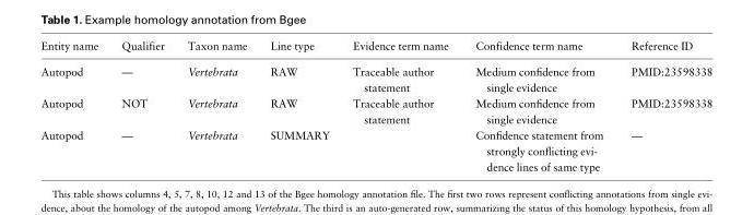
<table><thead><tr><td>Entity name</td><td>Qualifier</td><td>Taxon name</td><td>Line type</td><td>Evidence term name</td><td>Confidence term name</td><td>Reference ID</td></tr></thead><tbody><tr><td>Autopod</td><td>—</td><td>Vertebrata</td><td>RAW</td><td>Traceable author statement</td><td>Medium confidence from single evidence</td><td>PMID:23598338</td></tr><tr><td>Autopod</td><td>NOT</td><td>Vertebrata</td><td>RAW</td><td>Traceable author statement</td><td>Medium confidence from single evidence</td><td>PMID:23598338</td></tr><tr><td>Autopod</td><td>—</td><td>Vertebrata</td><td>SUMMARY</td><td></td><td>Confidence statement from strongly conflicting evi- dence lines of same type</td><td>—</td></tr></tbody></table>